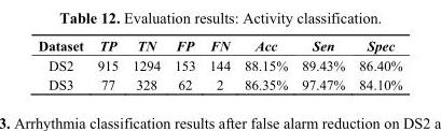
<table><thead><tr><td>Dataset</td><td>TP</td><td>TN</td><td>FP</td><td>FN</td><td>Acc</td><td>Sen</td><td>Spec</td></tr></thead><tbody><tr><td>DS2</td><td>915</td><td>1294</td><td>153</td><td>144</td><td>88.15%</td><td>89.43%</td><td>86.40%</td></tr><tr><td>DS3</td><td>77</td><td>328</td><td>62</td><td>2</td><td>86.35%</td><td>97.47%</td><td>84.10%</td></tr></tbody></table>